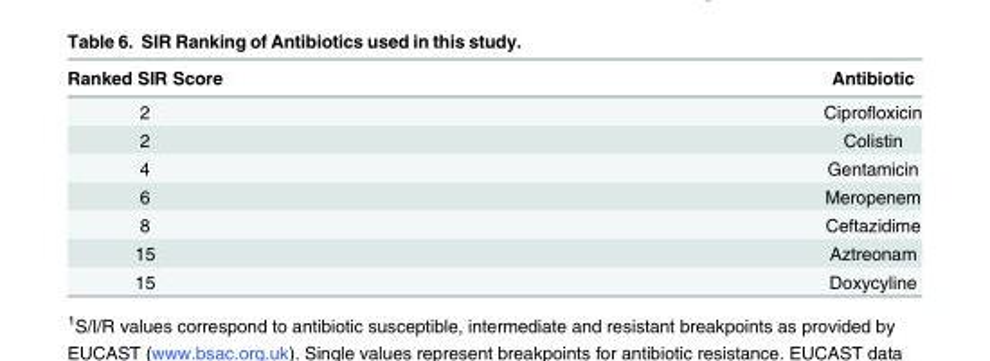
<table><thead><tr><td>Ranked SIR Score</td><td>Antibiotic</td></tr></thead><tbody><tr><td>2</td><td>Ciprofloxicin</td></tr><tr><td>2</td><td>Colistin</td></tr><tr><td>4</td><td>Gentamicin</td></tr><tr><td>6</td><td>Meropenem</td></tr><tr><td>8</td><td>Ceftazidime</td></tr><tr><td>15</td><td>Aztreonam</td></tr><tr><td>15</td><td>Doxycyline</td></tr></tbody></table>